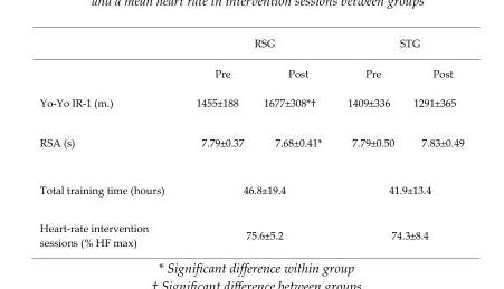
<table><thead><tr><td rowspan="2"></td><td colspan="2">RSG</td><td colspan="2">STG</td></tr><tr><td>Pre</td><td>Post</td><td>Pre</td><td>Post</td></tr></thead><tbody><tr><td>Yo-Yo IR-1 (m.)</td><td>1455±188</td><td>1677±308*†</td><td>1409±336</td><td>1291±365</td></tr><tr><td>RSA (s)</td><td>7.79±0.37</td><td>7.68±0.41*</td><td>7.79±0.50</td><td>7.83±0.49</td></tr><tr><td>Total training time (hours)</td><td colspan="2">46.8±19.4</td><td colspan="2">41.9±13.4</td></tr><tr><td>Heart-rate intervention sessions (% HF max)</td><td colspan="2">75.6±5.2</td><td colspan="2">74.3±8.4</td></tr></tbody></table>